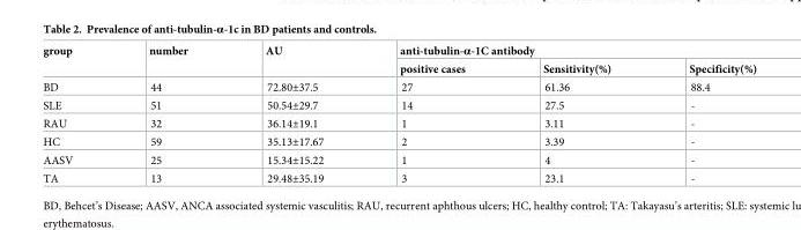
<table><thead><tr><td rowspan="2">group</td><td rowspan="2">number</td><td rowspan="2">AU</td><td colspan="3">anti-tubulin-α-1C antibody</td></tr><tr><td>positive cases</td><td>Sensitivity(%)</td><td>Specificity(%)</td></tr></thead><tbody><tr><td>BD</td><td>44</td><td>72.80±37.5</td><td>27</td><td>61.36</td><td>88.4</td></tr><tr><td>SLE</td><td>51</td><td>50.54±29.7</td><td>14</td><td>27.5</td><td>-</td></tr><tr><td>RAU</td><td>32</td><td>36.14±19.1</td><td>1</td><td>3.11</td><td>-</td></tr><tr><td>HC</td><td>59</td><td>35.13±17.67</td><td>2</td><td>3.39</td><td>-</td></tr><tr><td>AASV</td><td>25</td><td>15.34±15.22</td><td>1</td><td>4</td><td>-</td></tr><tr><td>TA</td><td>13</td><td>29.48±35.19</td><td>3</td><td>23.1</td><td>-</td></tr></tbody></table>